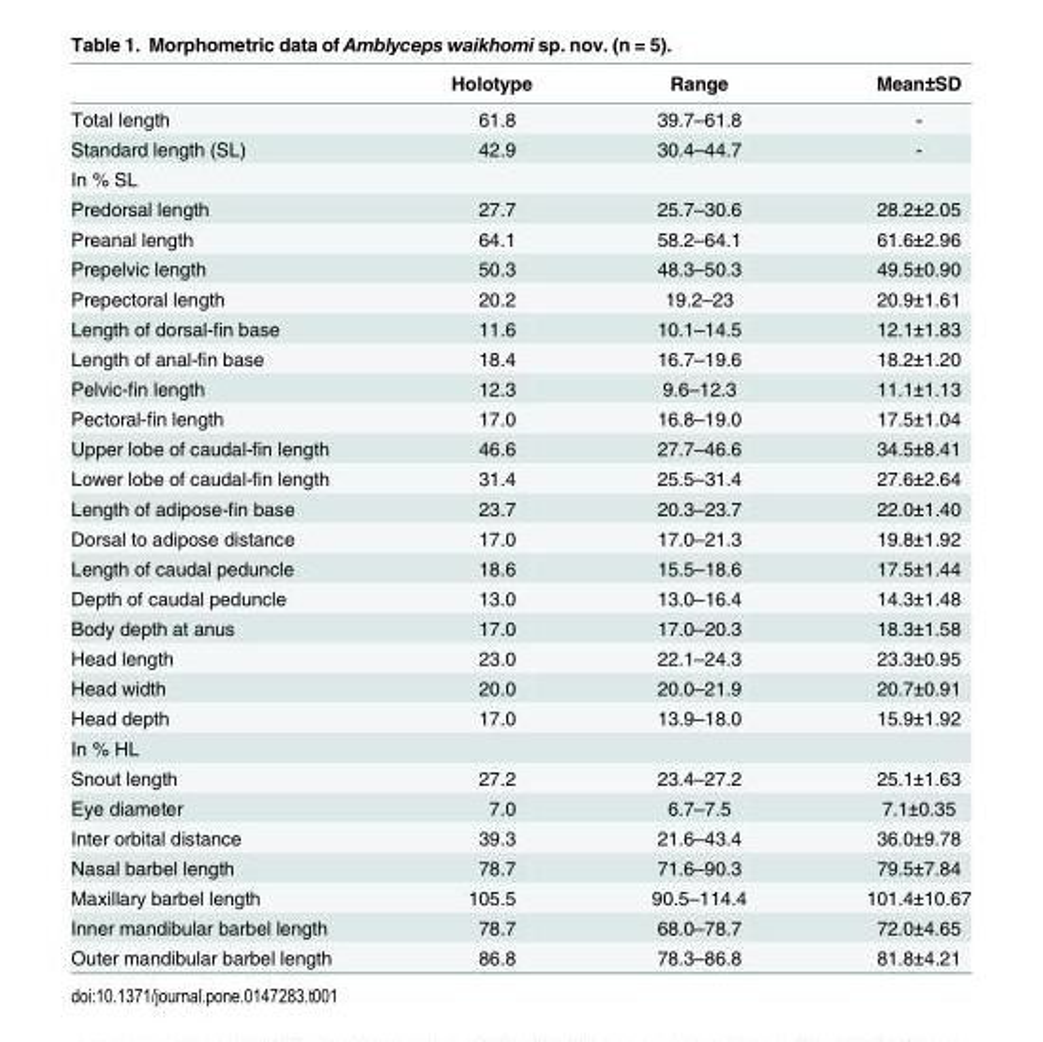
<table><thead><tr><td></td><td>Holotype</td><td>Range</td><td>Mean±SD</td></tr></thead><tbody><tr><td>Total length</td><td>61.8</td><td>39.7–61.8</td><td>-</td></tr><tr><td>Standard length (SL)</td><td>42.9</td><td>30.4–44.7</td><td>-</td></tr><tr><td colspan="4">In % SL</td></tr><tr><td>Predorsal length</td><td>27.7</td><td>25.7–30.6</td><td>28.2±2.05</td></tr><tr><td>Preanal length</td><td>64.1</td><td>58.2–64.1</td><td>61.6±2.96</td></tr><tr><td>Prepelvic length</td><td>50.3</td><td>48.3–50.3</td><td>49.5±0.90</td></tr><tr><td>Prepectoral length</td><td>20.2</td><td>19.2–23</td><td>20.9±1.61</td></tr><tr><td>Length of dorsal-fin base</td><td>11.6</td><td>10.1–14.5</td><td>12.1±1.83</td></tr><tr><td>Length of anal-fin base</td><td>18.4</td><td>16.7–19.6</td><td>18.2±1.20</td></tr><tr><td>Pelvic-fin length</td><td>12.3</td><td>9.6–12.3</td><td>11.1±1.13</td></tr><tr><td>Pectoral-fin length</td><td>17.0</td><td>16.8–19.0</td><td>17.5±1.04</td></tr><tr><td>Upper lobe of caudal-fin length</td><td>46.6</td><td>27.7–46.6</td><td>34.5±8.41</td></tr><tr><td>Lower lobe of caudal-fin length</td><td>31.4</td><td>25.5–31.4</td><td>27.6±2.64</td></tr><tr><td>Length of adipose-fin base</td><td>23.7</td><td>20.3–23.7</td><td>22.0±1.40</td></tr><tr><td>Dorsal to adipose distance</td><td>17.0</td><td>17.0–21.3</td><td>19.8±1.92</td></tr><tr><td>Length of caudal peduncle</td><td>18.6</td><td>15.5–18.6</td><td>17.5±1.44</td></tr><tr><td>Depth of caudal peduncle</td><td>13.0</td><td>13.0–16.4</td><td>14.3±1.48</td></tr><tr><td>Body depth at anus</td><td>17.0</td><td>17.0–20.3</td><td>18.3±1.58</td></tr><tr><td>Head length</td><td>23.0</td><td>22.1–24.3</td><td>23.3±0.95</td></tr><tr><td>Head width</td><td>20.0</td><td>20.0–21.9</td><td>20.7±0.91</td></tr><tr><td>Head depth</td><td>17.0</td><td>13.9–18.0</td><td>15.9±1.92</td></tr><tr><td colspan="4">In % HL</td></tr><tr><td>Snout length</td><td>27.2</td><td>23.4–27.2</td><td>25.1±1.63</td></tr><tr><td>Eye diameter</td><td>7.0</td><td>6.7–7.5</td><td>7.1±0.35</td></tr><tr><td>Inter orbital distance</td><td>39.3</td><td>21.6–43.4</td><td>36.0±9.78</td></tr><tr><td>Nasal barbel length</td><td>78.7</td><td>71.6–90.3</td><td>79.5±7.84</td></tr><tr><td>Maxillary barbel length</td><td>105.5</td><td>90.5–114.4</td><td>101.4±10.67</td></tr><tr><td>Inner mandibular barbel length</td><td>78.7</td><td>68.0–78.7</td><td>72.0±4.65</td></tr><tr><td>Outer mandibular barbel length</td><td>86.8</td><td>78.3–86.8</td><td>81.8±4.21</td></tr></tbody></table>